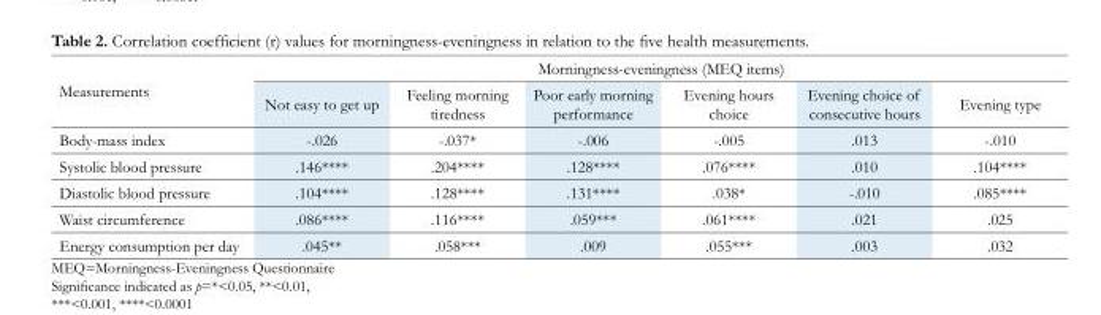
<table><thead><tr><td rowspan="2">Measurements</td><td colspan="6">Morningness-eveningness (MEQ items)</td></tr><tr><td>Not easy to get up</td><td>Feeling morning tiredness</td><td>Poor early morning performance</td><td>Evening hours choice</td><td>Evening choice of consecutive hours</td><td>Evening type</td></tr></thead><tbody><tr><td>Body-mass index</td><td>-.026</td><td>-.037*</td><td>-.006</td><td>-.005</td><td>.013</td><td>-.010</td></tr><tr><td>Systolic blood pressure</td><td>.146****</td><td>.204****</td><td>.128****</td><td>.076****</td><td>.010</td><td>.104****</td></tr><tr><td>Diastolic blood pressure</td><td>.104****</td><td>.128****</td><td>.131****</td><td>.038*</td><td>-.010</td><td>.085****</td></tr><tr><td>Waist circumference</td><td>.086****</td><td>.116****</td><td>.059***</td><td>.061****</td><td>.021</td><td>.025</td></tr><tr><td>Energy consumption per day</td><td>.045**</td><td>.058***</td><td>.009</td><td>.055***</td><td>.003</td><td>.032</td></tr></tbody></table>